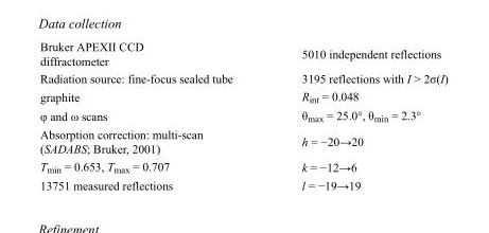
<table><tbody><tr><td>Bruker APEXII CCD diffractometer</td><td>5010 independent reflections</td></tr><tr><td>Radiation source: fine-focus sealed tube</td><td>3195 reflections with I &gt; 2σ(I)</td></tr><tr><td>graphite</td><td>R<sub>int</sub> = 0.048</td></tr><tr><td>φ and ω scans</td><td>θ<sub>max</sub> = 25.0°, θ<sub>min</sub> = 2.3°</td></tr><tr><td>Absorption correction: multi-scan (SADABS; Bruker, 2001)</td><td>h = −20→20</td></tr><tr><td>T<sub>min</sub> = 0.653, T<sub>max</sub> = 0.707</td><td>k = −12→6</td></tr><tr><td>13751 measured reflections</td><td>l = −19→19</td></tr></tbody></table>